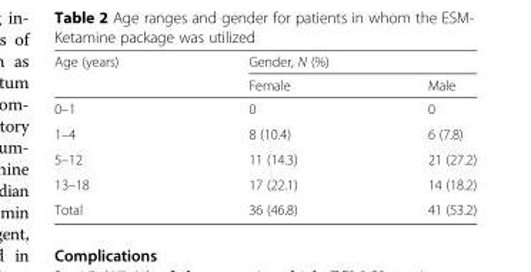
<table><thead><tr><td rowspan="2">Age (years)</td><td colspan="2">Gender, N (%)</td></tr><tr><td>Female</td><td>Male</td></tr></thead><tbody><tr><td>0–1</td><td>0</td><td>0</td></tr><tr><td>1–4</td><td>8 (10.4)</td><td>6 (7.8)</td></tr><tr><td>5–12</td><td>11 (14.3)</td><td>21 (27.2)</td></tr><tr><td>13–18</td><td>17 (22.1)</td><td>14 (18.2)</td></tr><tr><td>Total</td><td>36 (46.8)</td><td>41 (53.2)</td></tr></tbody></table>